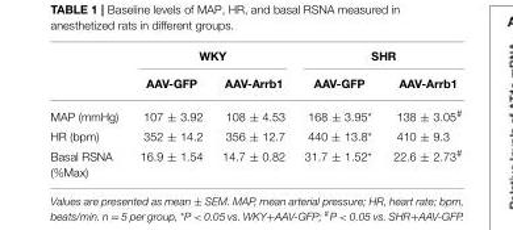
<table><thead><tr><td rowspan="2"></td><td colspan="2">WKY</td><td colspan="2">SHR</td></tr><tr><td>AAV-GFP</td><td>AAV-Arrb1</td><td>AAV-GFP</td><td>AAV-Arrb1</td></tr></thead><tbody><tr><td>MAP (mmHg)</td><td>107 ± 3.92</td><td>108 ± 4.53</td><td>168 ± 3.95*</td><td>138 ± 3.05<sup>#</sup></td></tr><tr><td>HR (bpm)</td><td>352 ± 14.2</td><td>356 ± 12.7</td><td>440 ± 13.8*</td><td>410 ± 9.3</td></tr><tr><td>Basal RSNA (%Max)</td><td>16.9 ± 1.54</td><td>14.7 ± 0.82</td><td>31.7 ± 1.52*</td><td>22.6 ± 2.73<sup>#</sup></td></tr></tbody></table>